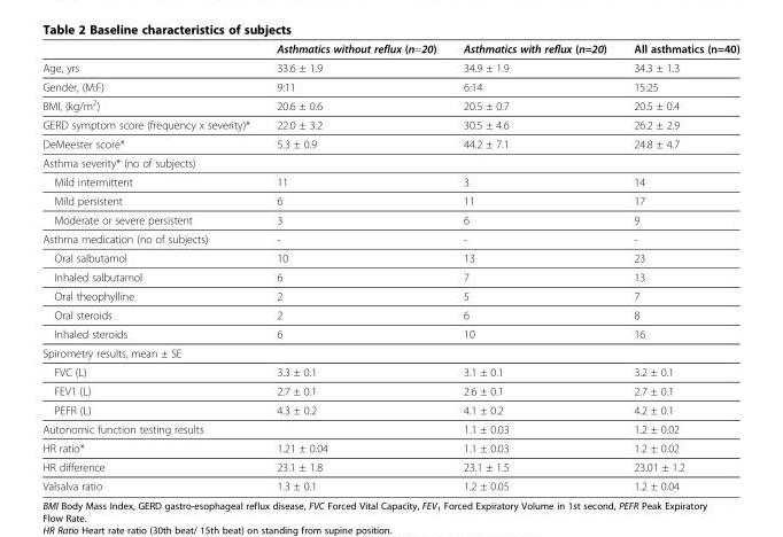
<table><thead><tr><td></td><td>Asthmatics without reflux (n=20)</td><td>Asthmatics with reflux (n=20)</td><td>All asthmatics (n=40)</td></tr></thead><tbody><tr><td>Age, yrs</td><td>33.6 ± 1.9</td><td>34.9 ± 1.9</td><td>34.3 ± 1.3</td></tr><tr><td>Gender, (M:F)</td><td>9:11</td><td>6:14</td><td>15:25</td></tr><tr><td>BMI, (kg/m<sup>2</sup>)</td><td>20.6 ± 0.6</td><td>20.5 ± 0.7</td><td>20.5 ± 0.4</td></tr><tr><td>GERD symptom score (frequency x severity)*</td><td>22.0 ± 3.2</td><td>30.5 ± 4.6</td><td>26.2 ± 2.9</td></tr><tr><td>DeMeester score*</td><td>5.3 ± 0.9</td><td>44.2 ± 7.1</td><td>24.8 ± 4.7</td></tr><tr><td colspan="4">Asthma severity* (no of subjects)</td></tr><tr><td>Mild intermittent</td><td>11</td><td>3</td><td>14</td></tr><tr><td>Mild persistent</td><td>6</td><td>11</td><td>17</td></tr><tr><td>Moderate or severe persistent</td><td>3</td><td>6</td><td>9</td></tr><tr><td>Asthma medication (no of subjects)</td><td>-</td><td>-</td><td>-</td></tr><tr><td>Oral salbutamol</td><td>10</td><td>13</td><td>23</td></tr><tr><td>Inhaled salbutamol</td><td>6</td><td>7</td><td>13</td></tr><tr><td>Oral theophylline</td><td>2</td><td>5</td><td>7</td></tr><tr><td>Oral steroids</td><td>2</td><td>6</td><td>8</td></tr><tr><td>Inhaled steroids</td><td>6</td><td>10</td><td>16</td></tr><tr><td colspan="4">Spirometry results, mean ± SE</td></tr><tr><td>FVC (L)</td><td>3.3 ± 0.1</td><td>3.1 ± 0.1</td><td>3.2 ± 0.1</td></tr><tr><td>FEV1 (L)</td><td>2.7 ± 0.1</td><td>2.6 ± 0.1</td><td>2.7 ± 0.1</td></tr><tr><td>PEFR (L)</td><td>4.3 ± 0.2</td><td>4.1 ± 0.2</td><td>4.2 ± 0.1</td></tr><tr><td>Autonomic function testing results</td><td></td><td>1.1 ± 0.03</td><td>1.2 ± 0.02</td></tr><tr><td>HR ratio*</td><td>1.21 ± 0.04</td><td>1.1 ± 0.03</td><td>1.2 ± 0.02</td></tr><tr><td>HR difference</td><td>23.1 ± 1.8</td><td>23.1 ± 1.5</td><td>23.01 ± 1.2</td></tr><tr><td>Valsalva ratio</td><td>1.3 ± 0.1</td><td>1.2 ± 0.05</td><td>1.2 ± 0.04</td></tr></tbody></table>